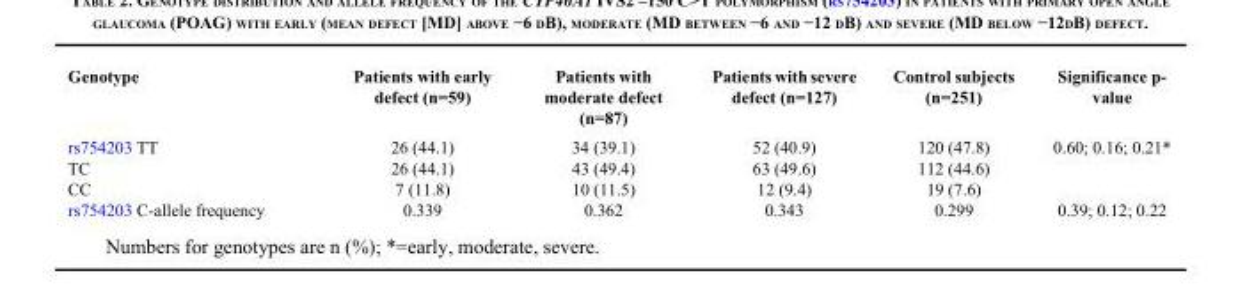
<table><thead><tr><td>Genotype</td><td>Patients with early defect (n=59)</td><td>Patients with moderate defect (n=87)</td><td>Patients with severe defect (n=127)</td><td>Control subjects (n=251)</td><td>Significance p- value</td></tr></thead><tbody><tr><td>rs754203 TT</td><td>26 (44.1)</td><td>34 (39.1)</td><td>52 (40.9)</td><td>120 (47.8)</td><td>0.60; 0.16; 0.21*</td></tr><tr><td>TC</td><td>26 (44.1)</td><td>43 (49.4)</td><td>63 (49.6)</td><td>112 (44.6)</td><td></td></tr><tr><td>CC</td><td>7 (11.8)</td><td>10 (11.5)</td><td>12 (9.4)</td><td>19 (7.6)</td><td></td></tr><tr><td>rs754203 C-allele frequency</td><td>0.339</td><td>0.362</td><td>0.343</td><td>0.299</td><td>0.39; 0.12; 0.22</td></tr></tbody></table>